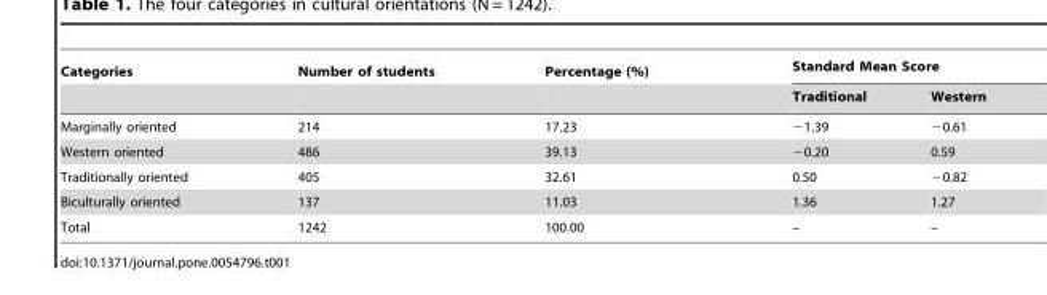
<table><thead><tr><td rowspan="2">Categories</td><td rowspan="2">Number of students</td><td rowspan="2">Percentage (%)</td><td colspan="2">Standard Mean Score</td></tr><tr><td>Traditional</td><td>Western</td></tr></thead><tbody><tr><td>Marginally oriented</td><td>214</td><td>17.23</td><td>−1.39</td><td>−0.61</td></tr><tr><td>Western oriented</td><td>486</td><td>39.13</td><td>−0.20</td><td>0.59</td></tr><tr><td>Traditionally oriented</td><td>405</td><td>32.61</td><td>0.50</td><td>−0.82</td></tr><tr><td>Biculturally oriented</td><td>137</td><td>11.03</td><td>1.36</td><td>1.27</td></tr><tr><td>Total</td><td>1242</td><td>100.00</td><td>–</td><td>–</td></tr></tbody></table>